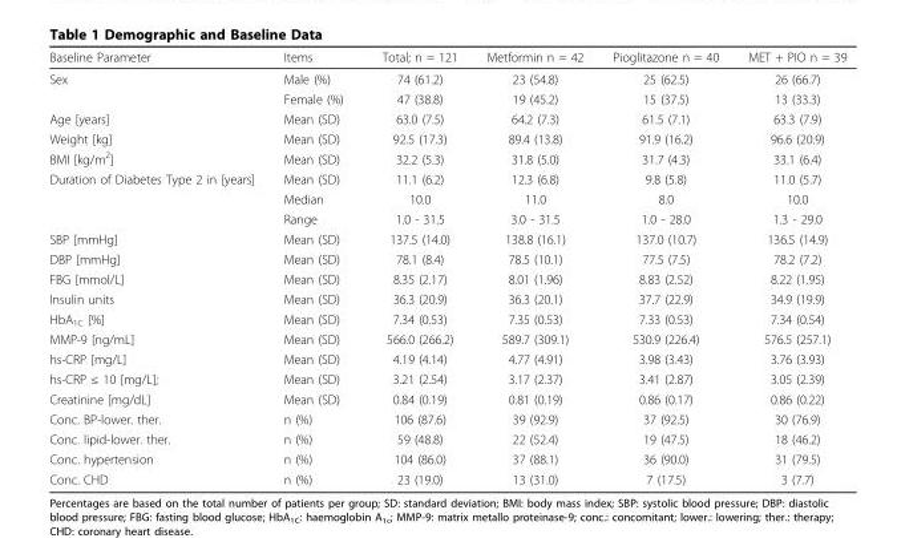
<table><thead><tr><td>Baseline Parameter</td><td>Items</td><td>Total; n = 121</td><td>Metformin n = 42</td><td>Pioglitazone n = 40</td><td>MET + PIO n = 39</td></tr></thead><tbody><tr><td rowspan="2">Sex</td><td>Male (%)</td><td>74 (61.2)</td><td>23 (54.8)</td><td>25 (62.5)</td><td>26 (66.7)</td></tr><tr><td>Female (%)</td><td>47 (38.8)</td><td>19 (45.2)</td><td>15 (37.5)</td><td>13 (33.3)</td></tr><tr><td>Age [years]</td><td>Mean (SD)</td><td>63.0 (7.5)</td><td>64.2 (7.3)</td><td>61.5 (7.1)</td><td>63.3 (7.9)</td></tr><tr><td>Weight [kg]</td><td>Mean (SD)</td><td>92.5 (17.3)</td><td>89.4 (13.8)</td><td>91.9 (16.2)</td><td>96.6 (20.9)</td></tr><tr><td>BMI [kg/m<sup>2</sup>]</td><td>Mean (SD)</td><td>32.2 (5.3)</td><td>31.8 (5.0)</td><td>31.7 (4.3)</td><td>33.1 (6.4)</td></tr><tr><td rowspan="3">Duration of Diabetes Type 2 in [years]</td><td>Mean (SD)</td><td>11.1 (6.2)</td><td>12.3 (6.8)</td><td>9.8 (5.8)</td><td>11.0 (5.7)</td></tr><tr><td>Median</td><td>10.0</td><td>11.0</td><td>8.0</td><td>10.0</td></tr><tr><td>Range</td><td>1.0 - 31.5</td><td>3.0 - 31.5</td><td>1.0 - 28.0</td><td>1.3 - 29.0</td></tr><tr><td>SBP [mmHg]</td><td>Mean (SD)</td><td>137.5 (14.0)</td><td>138.8 (16.1)</td><td>137.0 (10.7)</td><td>136.5 (14.9)</td></tr><tr><td>DBP [mmHg]</td><td>Mean (SD)</td><td>78.1 (8.4)</td><td>78.5 (10.1)</td><td>77.5 (7.5)</td><td>78.2 (7.2)</td></tr><tr><td>FBG [mmol/L]</td><td>Mean (SD)</td><td>8.35 (2.17)</td><td>8.01 (1.96)</td><td>8.83 (2.52)</td><td>8.22 (1.95)</td></tr><tr><td>Insulin units</td><td>Mean (SD)</td><td>36.3 (20.9)</td><td>36.3 (20.1)</td><td>37.7 (22.9)</td><td>34.9 (19.9)</td></tr><tr><td>HbA<sub>1C</sub> [%]</td><td>Mean (SD)</td><td>7.34 (0.53)</td><td>7.35 (0.53)</td><td>7.33 (0.53)</td><td>7.34 (0.54)</td></tr><tr><td>MMP-9 [ng/mL]</td><td>Mean (SD)</td><td>566.0 (266.2)</td><td>589.7 (309.1)</td><td>530.9 (226.4)</td><td>576.5 (257.1)</td></tr><tr><td>hs-CRP [mg/L]</td><td>Mean (SD)</td><td>4.19 (4.14)</td><td>4.77 (4.91)</td><td>3.98 (3.43)</td><td>3.76 (3.93)</td></tr><tr><td>hs-CRP ≤ 10 [mg/L];</td><td>Mean (SD)</td><td>3.21 (2.54)</td><td>3.17 (2.37)</td><td>3.41 (2.87)</td><td>3.05 (2.39)</td></tr><tr><td>Creatinine [mg/dL]</td><td>Mean (SD)</td><td>0.84 (0.19)</td><td>0.81 (0.19)</td><td>0.86 (0.17)</td><td>0.86 (0.22)</td></tr><tr><td>Conc. BP-lower. ther.</td><td>n (%)</td><td>106 (87.6)</td><td>39 (92.9)</td><td>37 (92.5)</td><td>30 (76.9)</td></tr><tr><td>Conc. lipid-lower. ther.</td><td>n (%)</td><td>59 (48.8)</td><td>22 (52.4)</td><td>19 (47.5)</td><td>18 (46.2)</td></tr><tr><td>Conc. hypertension</td><td>n (%)</td><td>104 (86.0)</td><td>37 (88.1)</td><td>36 (90.0)</td><td>31 (79.5)</td></tr><tr><td>Conc. CHD</td><td>n (%)</td><td>23 (19.0)</td><td>13 (31.0)</td><td>7 (17.5)</td><td>3 (7.7)</td></tr></tbody></table>